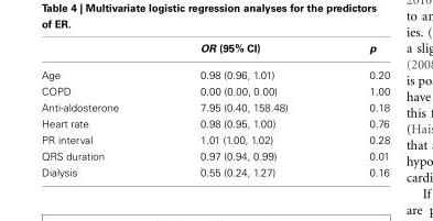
<table><thead><tr><td></td><td>OR (95% CI)</td><td>p</td></tr></thead><tbody><tr><td>Age</td><td>0.98 (0.96, 1.01)</td><td>0.20</td></tr><tr><td>COPD</td><td>0.00 (0.00, 0.00)</td><td>1.00</td></tr><tr><td>Anti-aldosterone</td><td>7.95 (0.40, 158.48)</td><td>0.18</td></tr><tr><td>Heart rate</td><td>0.98 (0.95, 1.00)</td><td>0.76</td></tr><tr><td>PR interval</td><td>1.01 (1.00, 1.02)</td><td>0.28</td></tr><tr><td>QRS duration</td><td>0.97 (0.94, 0.99)</td><td>0.01</td></tr><tr><td>Dialysis</td><td>0.55 (0.24, 1.27)</td><td>0.16</td></tr></tbody></table>